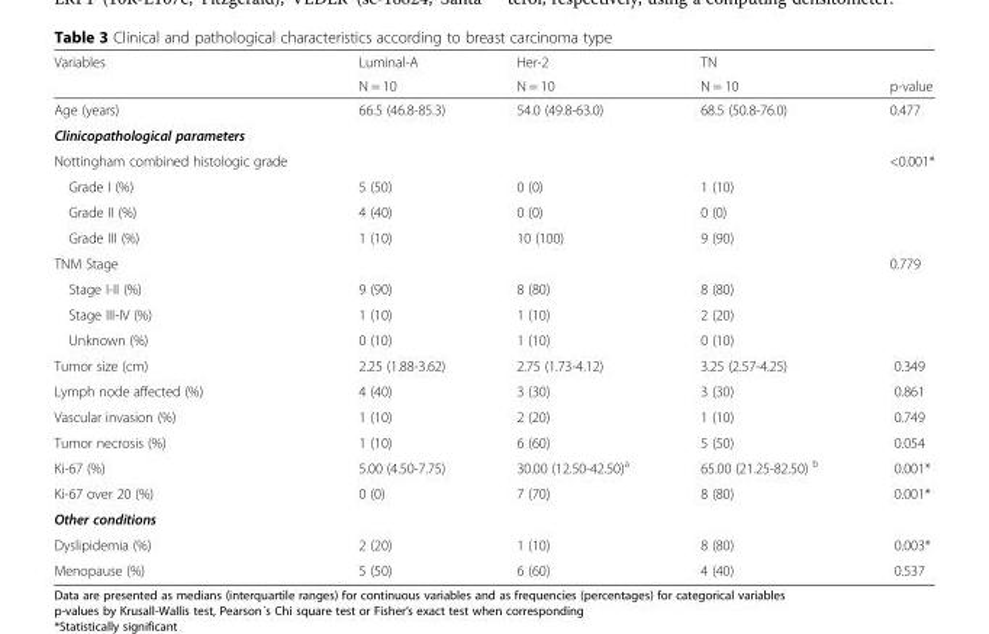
<table><thead><tr><td rowspan="2">Variables</td><td rowspan="2">Luminal-A N = 10</td><td rowspan="2">Her-2 N = 10</td><td rowspan="2">TN N = 10</td><td rowspan="2">p-value</td></tr><tr></tr></thead><tbody><tr><td>Age (years)</td><td>66.5 (46.8-85.3)</td><td>54.0 (49.8-63.0)</td><td>68.5 (50.8-76.0)</td><td>0.477</td></tr><tr><td colspan="5">Clinicopathological parameters</td></tr><tr><td>Nottingham combined histologic grade</td><td></td><td></td><td></td><td>&lt;0.001*</td></tr><tr><td>Grade I (%)</td><td>5 (50)</td><td>0 (0)</td><td>1 (10)</td><td></td></tr><tr><td>Grade II (%)</td><td>4 (40)</td><td>0 (0)</td><td>0 (0)</td><td></td></tr><tr><td>Grade III (%)</td><td>1 (10)</td><td>10 (100)</td><td>9 (90)</td><td></td></tr><tr><td>TNM Stage</td><td></td><td></td><td></td><td>0.779</td></tr><tr><td>Stage I-II (%)</td><td>9 (90)</td><td>8 (80)</td><td>8 (80)</td><td></td></tr><tr><td>Stage III-IV (%)</td><td>1 (10)</td><td>1 (10)</td><td>2 (20)</td><td></td></tr><tr><td>Unknown (%)</td><td>0 (10)</td><td>1 (10)</td><td>0 (10)</td><td></td></tr><tr><td>Tumor size (cm)</td><td>2.25 (1.88-3.62)</td><td>2.75 (1.73-4.12)</td><td>3.25 (2.57-4.25)</td><td>0.349</td></tr><tr><td>Lymph node affected (%)</td><td>4 (40)</td><td>3 (30)</td><td>3 (30)</td><td>0.861</td></tr><tr><td>Vascular invasion (%)</td><td>1 (10)</td><td>2 (20)</td><td>1 (10)</td><td>0.749</td></tr><tr><td>Tumor necrosis (%)</td><td>1 (10)</td><td>6 (60)</td><td>5 (50)</td><td>0.054</td></tr><tr><td>Ki-67 (%)</td><td>5.00 (4.50-7.75)</td><td>30.00 (12.50-42.50)<sup>a</sup></td><td>65.00 (21.25-82.50) <sup>b</sup></td><td>0.001*</td></tr><tr><td>Ki-67 over 20 (%)</td><td>0 (0)</td><td>7 (70)</td><td>8 (80)</td><td>0.001*</td></tr><tr><td colspan="5">Other conditions</td></tr><tr><td>Dyslipidemia (%)</td><td>2 (20)</td><td>1 (10)</td><td>8 (80)</td><td>0.003*</td></tr><tr><td>Menopause (%)</td><td>5 (50)</td><td>6 (60)</td><td>4 (40)</td><td>0.537</td></tr></tbody></table>